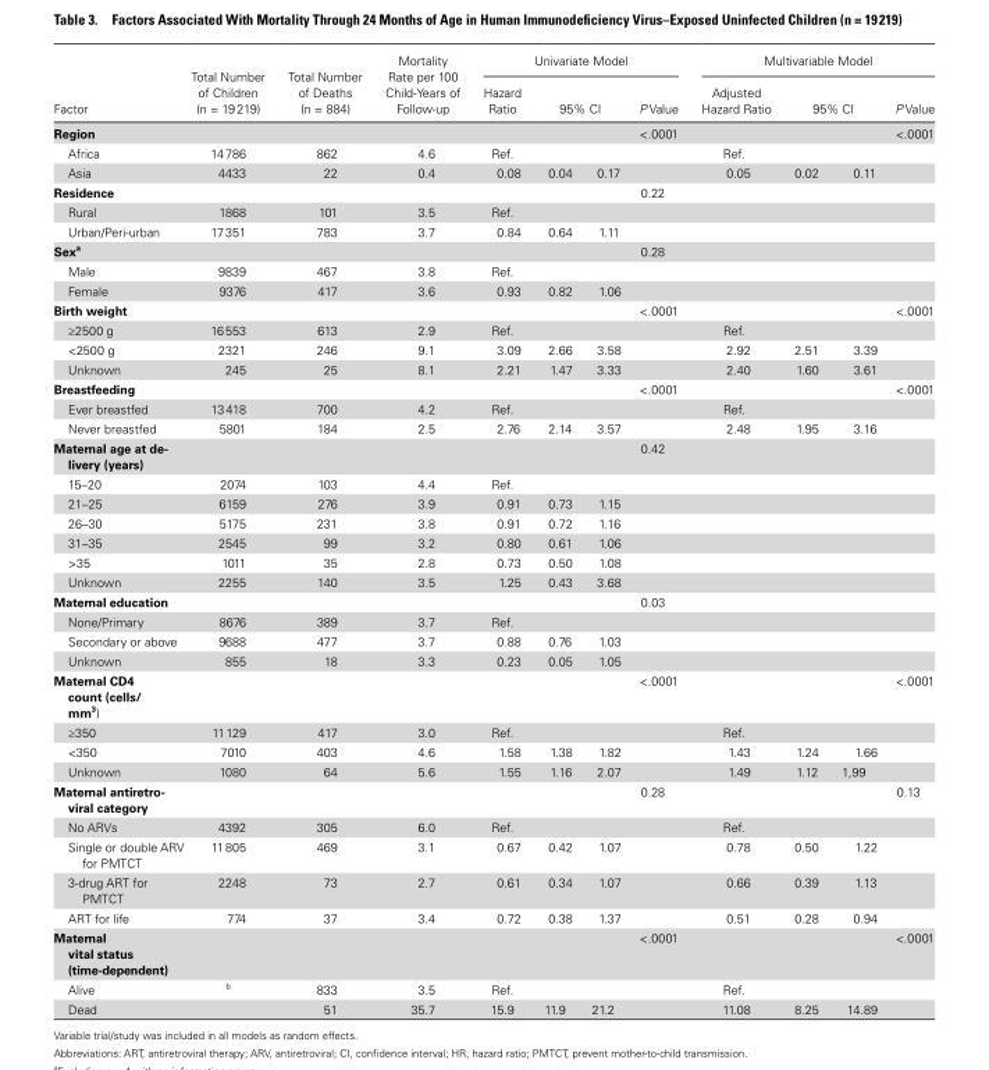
<table><thead><tr><td rowspan="3">Factor Region</td><td rowspan="3">Total Number of Children (n = 19 219)</td><td rowspan="3">Total Number of Deaths (n = 884)</td><td rowspan="3">Mortality Rate per 100 Child-Years of Follow-up</td><td colspan="4">Univariate Model</td><td colspan="4">Multivariable Model</td></tr><tr><td rowspan="2">Hazard Ratio</td><td colspan="2">95% CI</td><td rowspan="2">P Value &lt;.0001</td><td rowspan="2">Adjusted Hazard Ratio</td><td colspan="2">95% CI</td><td rowspan="2">P Value &lt;.0001</td></tr><tr><td></td><td></td><td></td><td></td></tr></thead><tbody><tr><td>Africa</td><td>14 786</td><td>862</td><td>4.6</td><td>Ref.</td><td></td><td></td><td></td><td>Ref.</td><td></td><td></td><td></td></tr><tr><td>Asia</td><td>4433</td><td>22</td><td>0.4</td><td>0.08</td><td>0.04</td><td>0.17</td><td></td><td>0.05</td><td>0.02</td><td>0.11</td><td></td></tr><tr><td>Residence</td><td></td><td></td><td></td><td></td><td></td><td></td><td>0.22</td><td></td><td></td><td></td><td></td></tr><tr><td>Rural</td><td>1868</td><td>101</td><td>3.5</td><td>Ref.</td><td></td><td></td><td></td><td></td><td></td><td></td><td></td></tr><tr><td>Urban/Peri-urban</td><td>17 351</td><td>783</td><td>3.7</td><td>0.84</td><td>0.64</td><td>1.11</td><td></td><td></td><td></td><td></td><td></td></tr><tr><td>Sex<sup>a</sup></td><td></td><td></td><td></td><td></td><td></td><td></td><td>0.28</td><td></td><td></td><td></td><td></td></tr><tr><td>Male</td><td>9839</td><td>467</td><td>3.8</td><td>Ref.</td><td></td><td></td><td></td><td></td><td></td><td></td><td></td></tr><tr><td>Female</td><td>9376</td><td>417</td><td>3.6</td><td>0.93</td><td>0.82</td><td>1.06</td><td></td><td></td><td></td><td></td><td></td></tr><tr><td>Birth weight</td><td></td><td></td><td></td><td></td><td></td><td></td><td>&lt;.0001</td><td></td><td></td><td></td><td>&lt;.0001</td></tr><tr><td>≥2500 g</td><td>16 553</td><td>613</td><td>2.9</td><td>Ref.</td><td></td><td></td><td></td><td>Ref.</td><td></td><td></td><td></td></tr><tr><td>&lt;2500 g</td><td>2321</td><td>246</td><td>9.1</td><td>3.09</td><td>2.66</td><td>3.58</td><td></td><td>2.92</td><td>2.51</td><td>3.39</td><td></td></tr><tr><td>Unknown</td><td>245</td><td>25</td><td>8.1</td><td>2.21</td><td>1.47</td><td>3.33</td><td></td><td>2.40</td><td>1.60</td><td>3.61</td><td></td></tr><tr><td>Breastfeeding</td><td></td><td></td><td></td><td></td><td></td><td></td><td>&lt;.0001</td><td></td><td></td><td></td><td>&lt;.0001</td></tr><tr><td>Ever breastfed</td><td>13 418</td><td>700</td><td>4.2</td><td>Ref.</td><td></td><td></td><td></td><td>Ref.</td><td></td><td></td><td></td></tr><tr><td>Never breastfed</td><td>5801</td><td>184</td><td>2.5</td><td>2.76</td><td>2.14</td><td>3.57</td><td></td><td>2.48</td><td>1.95</td><td>3.16</td><td></td></tr><tr><td>Maternal age at de- livery (years)</td><td></td><td></td><td></td><td></td><td></td><td></td><td>0.42</td><td></td><td></td><td></td><td></td></tr><tr><td>15–20</td><td>2074</td><td>103</td><td>4.4</td><td>Ref.</td><td></td><td></td><td></td><td></td><td></td><td></td><td></td></tr><tr><td>21–25</td><td>6159</td><td>276</td><td>3.9</td><td>0.91</td><td>0.73</td><td>1.15</td><td></td><td></td><td></td><td></td><td></td></tr><tr><td>26–30</td><td>5175</td><td>231</td><td>3.8</td><td>0.91</td><td>0.72</td><td>1.16</td><td></td><td></td><td></td><td></td><td></td></tr><tr><td>31–35</td><td>2545</td><td>99</td><td>3.2</td><td>0.80</td><td>0.61</td><td>1.06</td><td></td><td></td><td></td><td></td><td></td></tr><tr><td>&gt;35</td><td>1011</td><td>35</td><td>2.8</td><td>0.73</td><td>0.50</td><td>1.08</td><td></td><td></td><td></td><td></td><td></td></tr><tr><td>Unknown</td><td>2255</td><td>140</td><td>3.5</td><td>1.25</td><td>0.43</td><td>3.68</td><td></td><td></td><td></td><td></td><td></td></tr><tr><td>Maternal education</td><td></td><td></td><td></td><td></td><td></td><td></td><td>0.03</td><td></td><td></td><td></td><td></td></tr><tr><td>None/Primary</td><td>8676</td><td>389</td><td>3.7</td><td>Ref.</td><td></td><td></td><td></td><td></td><td></td><td></td><td></td></tr><tr><td>Secondary or above</td><td>9688</td><td>477</td><td>3.7</td><td>0.88</td><td>0.76</td><td>1.03</td><td></td><td></td><td></td><td></td><td></td></tr><tr><td>Unknown</td><td>855</td><td>18</td><td>3.3</td><td>0.23</td><td>0.05</td><td>1.05</td><td></td><td></td><td></td><td></td><td></td></tr><tr><td>Maternal CD4 count (cells/ mm<sup>3</sup>)</td><td></td><td></td><td></td><td></td><td></td><td></td><td>&lt;.0001</td><td></td><td></td><td></td><td>&lt;.0001</td></tr><tr><td>≥350</td><td>11 129</td><td>417</td><td>3.0</td><td>Ref.</td><td></td><td></td><td></td><td>Ref.</td><td></td><td></td><td></td></tr><tr><td>&lt;350</td><td>7010</td><td>403</td><td>4.6</td><td>1.58</td><td>1.38</td><td>1.82</td><td></td><td>1.43</td><td>1.24</td><td>1.66</td><td></td></tr><tr><td>Unknown</td><td>1080</td><td>64</td><td>5.6</td><td>1.55</td><td>1.16</td><td>2.07</td><td></td><td>1.49</td><td>1.12</td><td>1,99</td><td></td></tr><tr><td>Maternal antiretro- viral category</td><td></td><td></td><td></td><td></td><td></td><td></td><td>0.28</td><td></td><td></td><td></td><td>0.13</td></tr><tr><td>No ARVs</td><td>4392</td><td>305</td><td>6.0</td><td>Ref.</td><td></td><td></td><td></td><td>Ref.</td><td></td><td></td><td></td></tr><tr><td>Single or double ARV for PMTCT</td><td>11 805</td><td>469</td><td>3.1</td><td>0.67</td><td>0.42</td><td>1.07</td><td></td><td>0.78</td><td>0.50</td><td>1.22</td><td></td></tr><tr><td>3-drug ART for PMTCT</td><td>2248</td><td>73</td><td>2.7</td><td>0.61</td><td>0.34</td><td>1.07</td><td></td><td>0.66</td><td>0.39</td><td>1.13</td><td></td></tr><tr><td>ART for life</td><td>774</td><td>37</td><td>3.4</td><td>0.72</td><td>0.38</td><td>1.37</td><td></td><td>0.51</td><td>0.28</td><td>0.94</td><td></td></tr><tr><td>Maternal vital status (time-dependent)</td><td></td><td></td><td></td><td></td><td></td><td></td><td>&lt;.0001</td><td></td><td></td><td></td><td>&lt;.0001</td></tr><tr><td>Alive</td><td><sup>b</sup></td><td>833</td><td>3.5</td><td>Ref.</td><td></td><td></td><td></td><td>Ref.</td><td></td><td></td><td></td></tr><tr><td>Dead</td><td></td><td>51</td><td>35.7</td><td>15.9</td><td>11.9</td><td>21.2</td><td></td><td>11.08</td><td>8.25</td><td>14.89</td><td></td></tr></tbody></table>